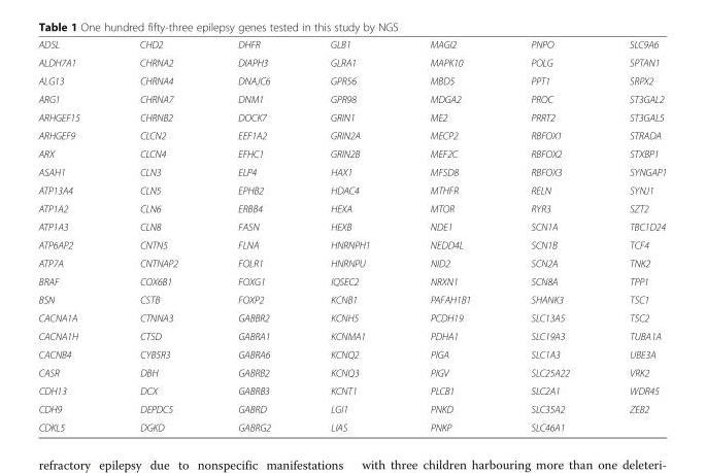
<table><tbody><tr><td>ADSL</td><td>CHD2</td><td>DHFR</td><td>GLB1</td><td>MAGI2</td><td>PNPO</td><td>SLC9A6</td></tr><tr><td>ALDH7A1</td><td>CHRNA2</td><td>DIAPH3</td><td>GLRA1</td><td>MAPK10</td><td>POLG</td><td>SPTAN1</td></tr><tr><td>ALG13</td><td>CHRNA4</td><td>DNAJC6</td><td>GPR56</td><td>MBD5</td><td>PPT1</td><td>SRPX2</td></tr><tr><td>ARG1</td><td>CHRNA7</td><td>DNM1</td><td>GPR98</td><td>MDGA2</td><td>PROC</td><td>ST3GAL2</td></tr><tr><td>ARHGEF15</td><td>CHRNB2</td><td>DOCK7</td><td>GRIN1</td><td>ME2</td><td>PRRT2</td><td>ST3GAL5</td></tr><tr><td>ARHGEF9</td><td>CLCN2</td><td>EEF1A2</td><td>GRIN2A</td><td>MECP2</td><td>RBFOX1</td><td>STRADA</td></tr><tr><td>ARX</td><td>CLCN4</td><td>EFHC1</td><td>GRIN2B</td><td>MEF2C</td><td>RBFOX2</td><td>STXBP1</td></tr><tr><td>ASAH1</td><td>CLN3</td><td>ELP4</td><td>HAX1</td><td>MFSD8</td><td>RBFOX3</td><td>SYNGAP1</td></tr><tr><td>ATP13A4</td><td>CLN5</td><td>EPHB2</td><td>HDAC4</td><td>MTHFR</td><td>RELN</td><td>SYNJ1</td></tr><tr><td>ATP1A2</td><td>CLN6</td><td>ERBB4</td><td>HEXA</td><td>MTOR</td><td>RYR3</td><td>SZT2</td></tr><tr><td>ATP1A3</td><td>CLN8</td><td>FASN</td><td>HEXB</td><td>NDE1</td><td>SCN1A</td><td>TBC1D24</td></tr><tr><td>ATP6AP2</td><td>CNTN5</td><td>FLNA</td><td>HNRNPH1</td><td>NEDD4L</td><td>SCN1B</td><td>TCF4</td></tr><tr><td>ATP7A</td><td>CNTNAP2</td><td>FOLR1</td><td>HNRNPU</td><td>NID2</td><td>SCN2A</td><td>TNK2</td></tr><tr><td>BRAF</td><td>COX6B1</td><td>FOXG1</td><td>IQSEC2</td><td>NRXN1</td><td>SCN8A</td><td>TPP1</td></tr><tr><td>BSN</td><td>CSTB</td><td>FOXP2</td><td>KCNB1</td><td>PAFAH1B1</td><td>SHANK3</td><td>TSC1</td></tr><tr><td>CACNA1A</td><td>CTNNA3</td><td>GABBR2</td><td>KCNH5</td><td>PCDH19</td><td>SLC13A5</td><td>TSC2</td></tr><tr><td>CACNA1H</td><td>CTSD</td><td>GABRA1</td><td>KCNMA1</td><td>PDHA1</td><td>SLC19A3</td><td>TUBA1A</td></tr><tr><td>CACNB4</td><td>CYB5R3</td><td>GABRA6</td><td>KCNQ2</td><td>PIGA</td><td>SLC1A3</td><td>UBE3A</td></tr><tr><td>CASR</td><td>DBH</td><td>GABRB2</td><td>KCNQ3</td><td>PIGV</td><td>SLC25A22</td><td>VRK2</td></tr><tr><td>CDH13</td><td>DCX</td><td>GABRB3</td><td>KCNT1</td><td>PLCB1</td><td>SLC2A1</td><td>WDR45</td></tr><tr><td>CDH9</td><td>DEPDC5</td><td>GABRD</td><td>LGI1</td><td>PNKD</td><td>SLC35A2</td><td>ZEB2</td></tr><tr><td>CDKL5</td><td>DGKD</td><td>GABRG2</td><td>LIAS</td><td>PNKP</td><td>SLC46A1</td><td></td></tr></tbody></table>